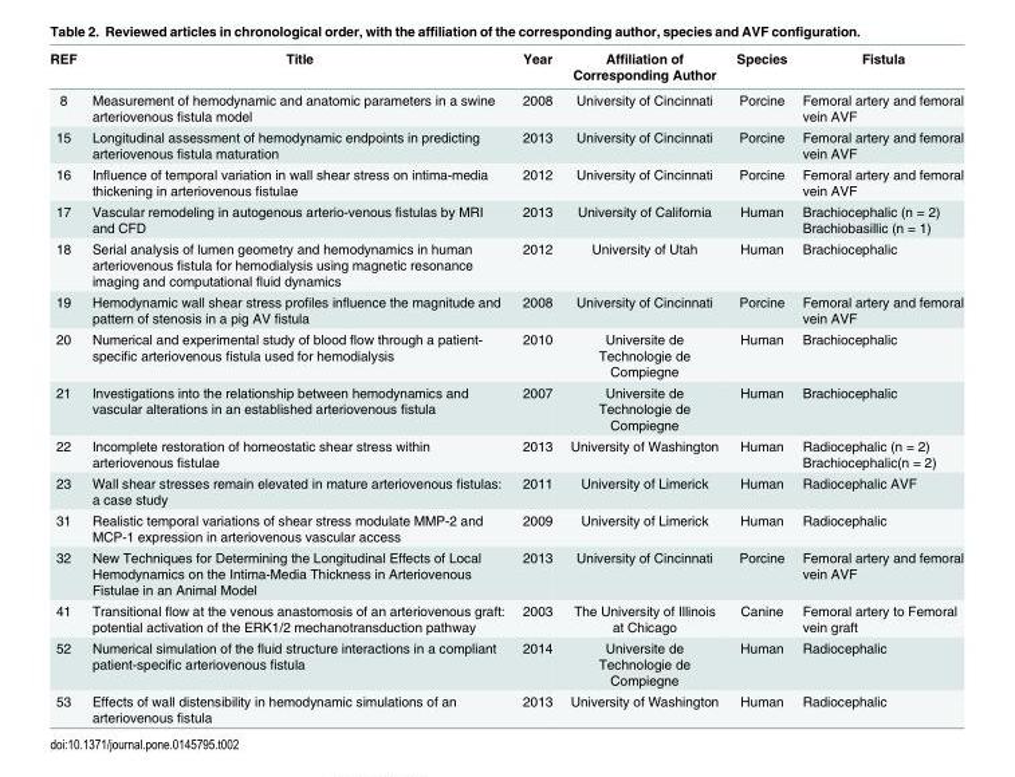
<table><thead><tr><td>REF</td><td>Title</td><td>Year</td><td>Affiliation of Corresponding Author</td><td>Species</td><td>Fistula</td></tr></thead><tbody><tr><td>8</td><td>Measurement of hemodynamic and anatomic parameters in a swine arteriovenous fistula model</td><td>2008</td><td>University of Cincinnati</td><td>Porcine</td><td>Femoral artery and femoral vein AVF</td></tr><tr><td>15</td><td>Longitudinal assessment of hemodynamic endpoints in predicting arteriovenous fistula maturation</td><td>2013</td><td>University of Cincinnati</td><td>Porcine</td><td>Femoral artery and femoral vein AVF</td></tr><tr><td>16</td><td>Influence of temporal variation in wall shear stress on intima-media thickening in arteriovenous fistulae</td><td>2012</td><td>University of Cincinnati</td><td>Porcine</td><td>Femoral artery and femoral vein AVF</td></tr><tr><td>17</td><td>Vascular remodeling in autogenous arterio-venous fistulas by MRI and CFD</td><td>2013</td><td>University of California</td><td>Human</td><td>Brachiocephalic (n = 2) Brachiobasillic (n = 1)</td></tr><tr><td>18</td><td>Serial analysis of lumen geometry and hemodynamics in human arteriovenous fistula for hemodialysis using magnetic resonance imaging and computational fluid dynamics</td><td>2012</td><td>University of Utah</td><td>Human</td><td>Brachiocephalic</td></tr><tr><td>19</td><td>Hemodynamic wall shear stress profiles influence the magnitude and pattern of stenosis in a pig AV fistula</td><td>2008</td><td>University of Cincinnati</td><td>Porcine</td><td>Femoral artery and femoral vein AVF</td></tr><tr><td>20</td><td>Numerical and experimental study of blood flow through a patient- specific arteriovenous fistula used for hemodialysis</td><td>2010</td><td>Universite de Technologie de Compiegne</td><td>Human</td><td>Brachiocephalic</td></tr><tr><td>21</td><td>Investigations into the relationship between hemodynamics and vascular alterations in an established arteriovenous fistula</td><td>2007</td><td>Universite de Technologie de Compiegne</td><td>Human</td><td>Brachiocephalic</td></tr><tr><td>22</td><td>Incomplete restoration of homeostatic shear stress within arteriovenous fistulae</td><td>2013</td><td>University of Washington</td><td>Human</td><td>Radiocephalic (n = 2) Brachiocephalic(n = 2)</td></tr><tr><td>23</td><td>Wall shear stresses remain elevated in mature arteriovenous fistulas: a case study</td><td>2011</td><td>University of Limerick</td><td>Human</td><td>Radiocephalic AVF</td></tr><tr><td>31</td><td>Realistic temporal variations of shear stress modulate MMP-2 and MCP-1 expression in arteriovenous vascular access</td><td>2009</td><td>University of Limerick</td><td>Human</td><td>Radiocephalic</td></tr><tr><td>32</td><td>New Techniques for Determining the Longitudinal Effects of Local Hemodynamics on the Intima‐Media Thickness in Arteriovenous Fistulae in an Animal Model</td><td>2013</td><td>University of Cincinnati</td><td>Porcine</td><td>Femoral artery and femoral vein AVF</td></tr><tr><td>41</td><td>Transitional flow at the venous anastomosis of an arteriovenous graft: potential activation of the ERK1/2 mechanotransduction pathway</td><td>2003</td><td>The University of Illinois at Chicago</td><td>Canine</td><td>Femoral artery to Femoral vein graft</td></tr><tr><td>52</td><td>Numerical simulation of the fluid structure interactions in a compliant patient‐specific arteriovenous fistula</td><td>2014</td><td>Universite de Technologie de Compiegne</td><td>Human</td><td>Radiocephalic</td></tr><tr><td>53</td><td>Effects of wall distensibility in hemodynamic simulations of an arteriovenous fistula</td><td>2013</td><td>University of Washington</td><td>Human</td><td>Radiocephalic</td></tr></tbody></table>